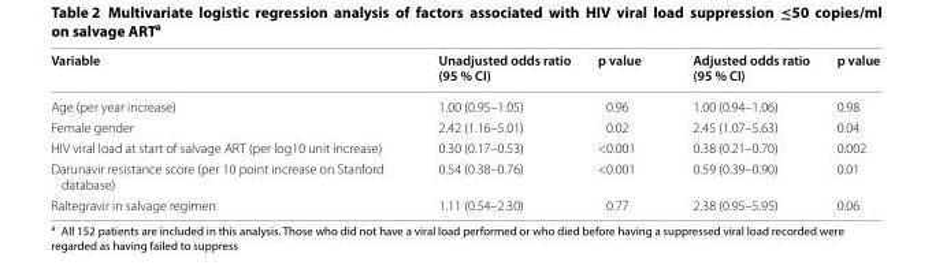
<table><thead><tr><td>Variable</td><td>Unadjusted odds ratio (95 % CI)</td><td>p value</td><td>Adjusted odds ratio (95 % CI)</td><td>p value</td></tr></thead><tbody><tr><td>Age (per year increase)</td><td>1.00 (0.95–1.05)</td><td>0.96</td><td>1.00 (0.94–1.06)</td><td>0.98</td></tr><tr><td>Female gender</td><td>2.42 (1.16–5.01)</td><td>0.02</td><td>2.45 (1.07–5.63)</td><td>0.04</td></tr><tr><td>HIV viral load at start of salvage ART (per log10 unit increase)</td><td>0.30 (0.17–0.53)</td><td>&lt;0.001</td><td>0.38 (0.21–0.70)</td><td>0.002</td></tr><tr><td>Darunavir resistance score (per 10 point increase on Stanford database)</td><td>0.54 (0.38–0.76)</td><td>&lt;0.001</td><td>0.59 (0.39–0.90)</td><td>0.01</td></tr><tr><td>Raltegravir in salvage regimen</td><td>1.11 (0.54–2.30)</td><td>0.77</td><td>2.38 (0.95–5.95)</td><td>0.06</td></tr></tbody></table>